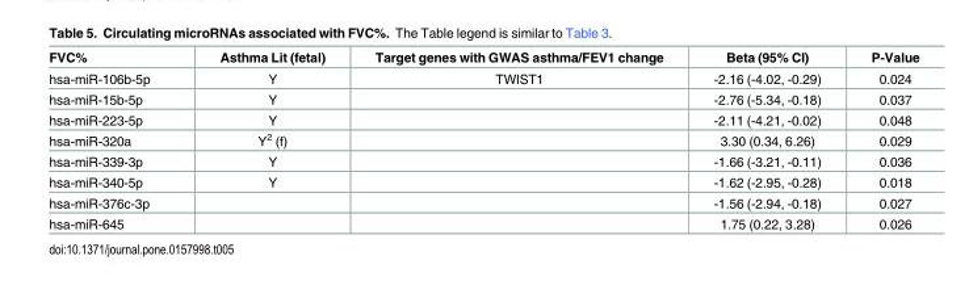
<table><thead><tr><td>FVC%</td><td>Asthma Lit (fetal)</td><td>Target genes with GWAS asthma/FEV1 change</td><td>Beta (95% CI)</td><td>P-Value</td></tr></thead><tbody><tr><td>hsa-miR-106b-5p</td><td>Y</td><td>TWIST1</td><td>-2.16 (-4.02, -0.29)</td><td>0.024</td></tr><tr><td>hsa-miR-15b-5p</td><td>Y</td><td></td><td>-2.76 (-5.34, -0.18)</td><td>0.037</td></tr><tr><td>hsa-miR-223-5p</td><td>Y</td><td></td><td>-2.11 (-4.21, -0.02)</td><td>0.048</td></tr><tr><td>hsa-miR-320a</td><td>Y<sup>2</sup> (f)</td><td></td><td>3.30 (0.34, 6.26)</td><td>0.029</td></tr><tr><td>hsa-miR-339-3p</td><td>Y</td><td></td><td>-1.66 (-3.21, -0.11)</td><td>0.036</td></tr><tr><td>hsa-miR-340-5p</td><td>Y</td><td></td><td>-1.62 (-2.95, -0.28)</td><td>0.018</td></tr><tr><td>hsa-miR-376c-3p</td><td></td><td></td><td>-1.56 (-2.94, -0.18)</td><td>0.027</td></tr><tr><td>hsa-miR-645</td><td></td><td></td><td>1.75 (0.22, 3.28)</td><td>0.026</td></tr></tbody></table>